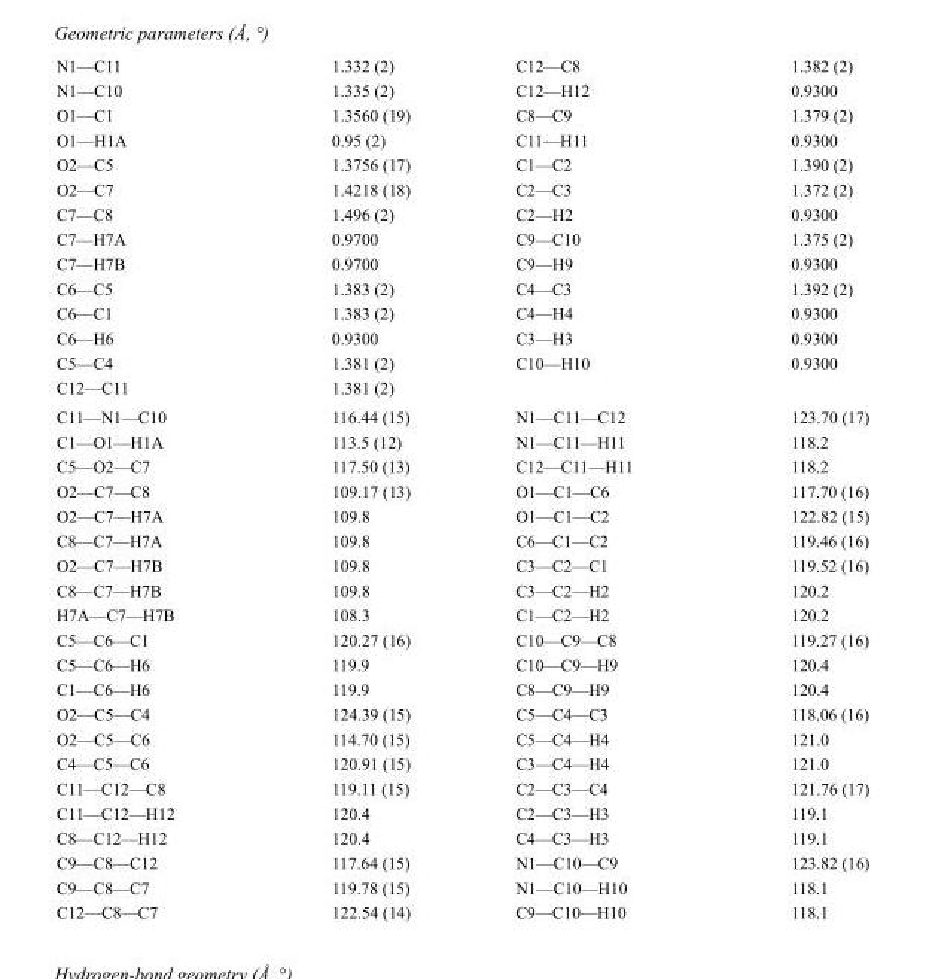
<table><tbody><tr><td>N1—C11</td><td>1.332 (2)</td><td>C12—C8</td><td>1.382 (2)</td></tr><tr><td>N1—C10</td><td>1.335 (2)</td><td>C12—H12</td><td>0.9300</td></tr><tr><td>O1—C1</td><td>1.3560 (19)</td><td>C8—C9</td><td>1.379 (2)</td></tr><tr><td>O1—H1A</td><td>0.95 (2)</td><td>C11—H11</td><td>0.9300</td></tr><tr><td>O2—C5</td><td>1.3756 (17)</td><td>C1—C2</td><td>1.390 (2)</td></tr><tr><td>O2—C7</td><td>1.4218 (18)</td><td>C2—C3</td><td>1.372 (2)</td></tr><tr><td>C7—C8</td><td>1.496 (2)</td><td>C2—H2</td><td>0.9300</td></tr><tr><td>C7—H7A</td><td>0.9700</td><td>C9—C10</td><td>1.375 (2)</td></tr><tr><td>C7—H7B</td><td>0.9700</td><td>C9—H9</td><td>0.9300</td></tr><tr><td>C6—C5</td><td>1.383 (2)</td><td>C4—C3</td><td>1.392 (2)</td></tr><tr><td>C6—C1</td><td>1.383 (2)</td><td>C4—H4</td><td>0.9300</td></tr><tr><td>C6—H6</td><td>0.9300</td><td>C3—H3</td><td>0.9300</td></tr><tr><td>C5—C4</td><td>1.381 (2)</td><td>C10—H10</td><td>0.9300</td></tr><tr><td>C12—C11</td><td>1.381 (2)</td><td></td><td></td></tr><tr><td>C11—N1—C10</td><td>116.44 (15)</td><td>N1—C11—C12</td><td>123.70 (17)</td></tr><tr><td>C1—O1—H1A</td><td>113.5 (12)</td><td>N1—C11—H11</td><td>118.2</td></tr><tr><td>C5—O2—C7</td><td>117.50 (13)</td><td>C12—C11—H11</td><td>118.2</td></tr><tr><td>O2—C7—C8</td><td>109.17 (13)</td><td>O1—C1—C6</td><td>117.70 (16)</td></tr><tr><td>O2—C7—H7A</td><td>109.8</td><td>O1—C1—C2</td><td>122.82 (15)</td></tr><tr><td>C8—C7—H7A</td><td>109.8</td><td>C6—C1—C2</td><td>119.46 (16)</td></tr><tr><td>O2—C7—H7B</td><td>109.8</td><td>C3—C2—C1</td><td>119.52 (16)</td></tr><tr><td>C8—C7—H7B</td><td>109.8</td><td>C3—C2—H2</td><td>120.2</td></tr><tr><td>H7A—C7—H7B</td><td>108.3</td><td>C1—C2—H2</td><td>120.2</td></tr><tr><td>C5—C6—C1</td><td>120.27 (16)</td><td>C10—C9—C8</td><td>119.27 (16)</td></tr><tr><td>C5—C6—H6</td><td>119.9</td><td>C10—C9—H9</td><td>120.4</td></tr><tr><td>C1—C6—H6</td><td>119.9</td><td>C8—C9—H9</td><td>120.4</td></tr><tr><td>O2—C5—C4</td><td>124.39 (15)</td><td>C5—C4—C3</td><td>118.06 (16)</td></tr><tr><td>O2—C5—C6</td><td>114.70 (15)</td><td>C5—C4—H4</td><td>121.0</td></tr><tr><td>C4—C5—C6</td><td>120.91 (15)</td><td>C3—C4—H4</td><td>121.0</td></tr><tr><td>C11—C12—C8</td><td>119.11 (15)</td><td>C2—C3—C4</td><td>121.76 (17)</td></tr><tr><td>C11—C12—H12</td><td>120.4</td><td>C2—C3—H3</td><td>119.1</td></tr><tr><td>C8—C12—H12</td><td>120.4</td><td>C4—C3—H3</td><td>119.1</td></tr><tr><td>C9—C8—C12</td><td>117.64 (15)</td><td>N1—C10—C9</td><td>123.82 (16)</td></tr><tr><td>C9—C8—C7</td><td>119.78 (15)</td><td>N1—C10—H10</td><td>118.1</td></tr><tr><td>C12—C8—C7</td><td>122.54 (14)</td><td>C9—C10—H10</td><td>118.1</td></tr></tbody></table>